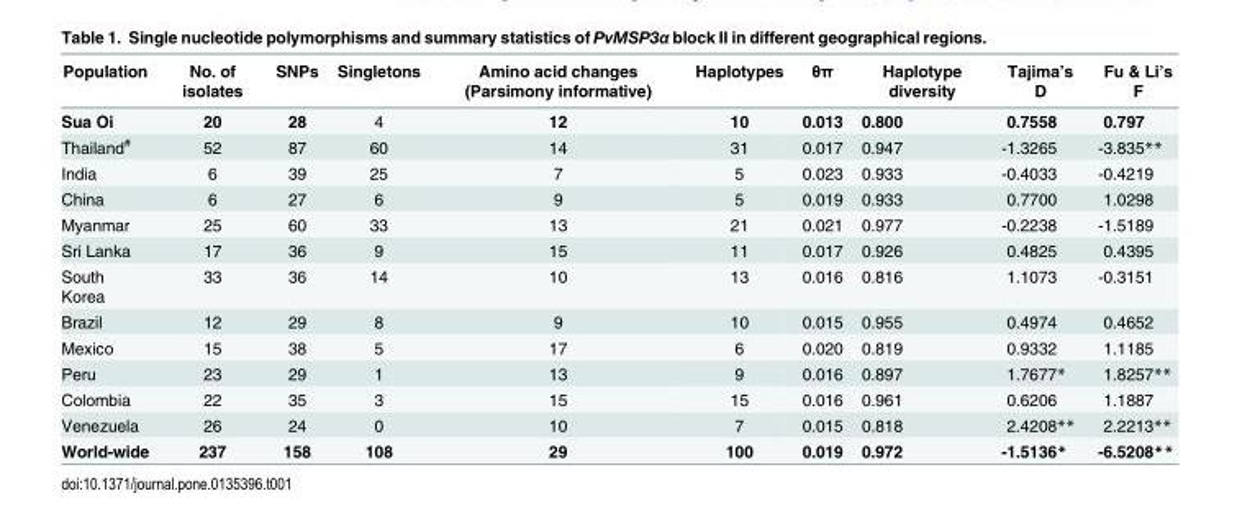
<table><thead><tr><td>Population</td><td>No. of isolates</td><td>SNPs</td><td>Singletons</td><td>Amino acid changes (Parsimony informative)</td><td>Haplotypes</td><td>θπ</td><td>Haplotype diversity</td><td>Tajima’s D</td><td>Fu &amp; Li’s F</td></tr></thead><tbody><tr><td>Sua Oi</td><td>20</td><td>28</td><td>4</td><td>12</td><td>10</td><td>0.013</td><td>0.800</td><td>0.7558</td><td>0.797</td></tr><tr><td>Thailand<sup>#</sup></td><td>52</td><td>87</td><td>60</td><td>14</td><td>31</td><td>0.017</td><td>0.947</td><td>-1.3265</td><td>-3.835**</td></tr><tr><td>India</td><td>6</td><td>39</td><td>25</td><td>7</td><td>5</td><td>0.023</td><td>0.933</td><td>-0.4033</td><td>-0.4219</td></tr><tr><td>China</td><td>6</td><td>27</td><td>6</td><td>9</td><td>5</td><td>0.019</td><td>0.933</td><td>0.7700</td><td>1.0298</td></tr><tr><td>Myanmar</td><td>25</td><td>60</td><td>33</td><td>13</td><td>21</td><td>0.021</td><td>0.977</td><td>-0.2238</td><td>-1.5189</td></tr><tr><td>Sri Lanka</td><td>17</td><td>36</td><td>9</td><td>15</td><td>11</td><td>0.017</td><td>0.926</td><td>0.4825</td><td>0.4395</td></tr><tr><td>South Korea</td><td>33</td><td>36</td><td>14</td><td>10</td><td>13</td><td>0.016</td><td>0.816</td><td>1.1073</td><td>-0.3151</td></tr><tr><td>Brazil</td><td>12</td><td>29</td><td>8</td><td>9</td><td>10</td><td>0.015</td><td>0.955</td><td>0.4974</td><td>0.4652</td></tr><tr><td>Mexico</td><td>15</td><td>38</td><td>5</td><td>17</td><td>6</td><td>0.020</td><td>0.819</td><td>0.9332</td><td>1.1185</td></tr><tr><td>Peru</td><td>23</td><td>29</td><td>1</td><td>13</td><td>9</td><td>0.016</td><td>0.897</td><td>1.7677*</td><td>1.8257**</td></tr><tr><td>Colombia</td><td>22</td><td>35</td><td>3</td><td>15</td><td>15</td><td>0.016</td><td>0.961</td><td>0.6206</td><td>1.1887</td></tr><tr><td>Venezuela</td><td>26</td><td>24</td><td>0</td><td>10</td><td>7</td><td>0.015</td><td>0.818</td><td>2.4208**</td><td>2.2213**</td></tr><tr><td>World-wide</td><td>237</td><td>158</td><td>108</td><td>29</td><td>100</td><td>0.019</td><td>0.972</td><td>-1.5136*</td><td>-6.5208**</td></tr></tbody></table>